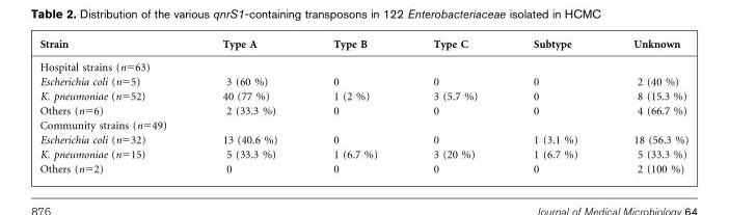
<table><thead><tr><td>Strain</td><td>Type A</td><td>Type B</td><td>Type C</td><td>Subtype</td><td>Unknown</td></tr></thead><tbody><tr><td colspan="6">Hospital strains (n=63)</td></tr><tr><td>Escherichia coli (n=5)</td><td>3 (60 %)</td><td>0</td><td>0</td><td>0</td><td>2 (40 %)</td></tr><tr><td>K. pneumoniae (n=52)</td><td>40 (77 %)</td><td>1 (2 %)</td><td>3 (5.7 %)</td><td>0</td><td>8 (15.3 %)</td></tr><tr><td>Others (n=6)</td><td>2 (33.3 %)</td><td>0</td><td>0</td><td>0</td><td>4 (66.7 %)</td></tr><tr><td colspan="6">Community strains (n=49)</td></tr><tr><td>Escherichia coli (n=32)</td><td>13 (40.6 %)</td><td>0</td><td>0</td><td>1 (3.1 %)</td><td>18 (56.3 %)</td></tr><tr><td>K. pneumoniae (n=15)</td><td>5 (33.3 %)</td><td>1 (6.7 %)</td><td>3 (20 %)</td><td>1 (6.7 %)</td><td>5 (33.3 %)</td></tr><tr><td>Others (n=2)</td><td>0</td><td>0</td><td>0</td><td>0</td><td>2 (100 %)</td></tr></tbody></table>